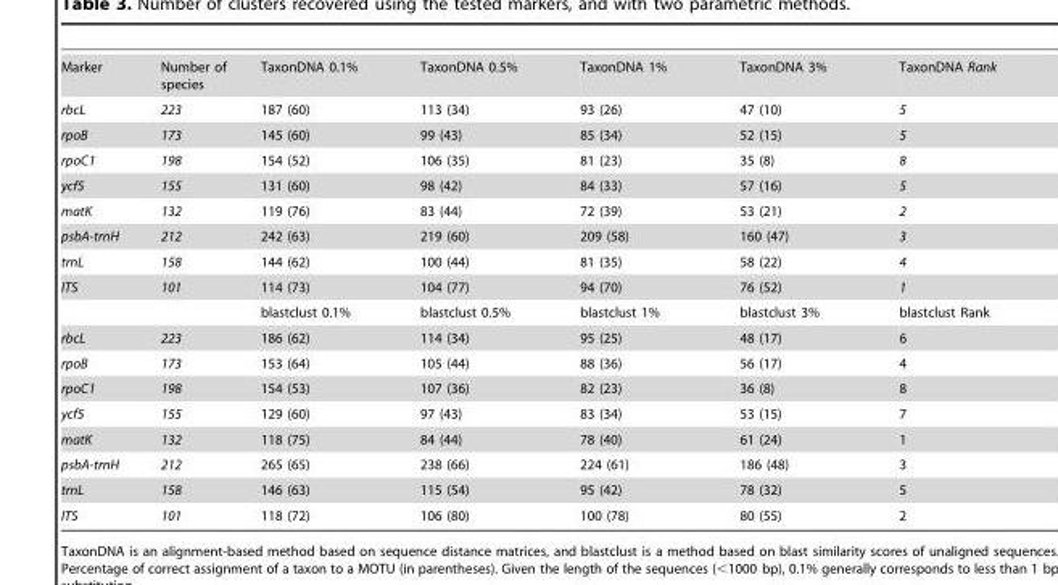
<table><tbody><tr><td>Marker</td><td>Number of species</td><td>TaxonDNA 0.1%</td><td>TaxonDNA 0.5%</td><td>TaxonDNA 1%</td><td>TaxonDNA 3%</td><td>TaxonDNA Rank</td></tr><tr><td>rbcL</td><td>223</td><td>187 (60)</td><td>113 (34)</td><td>93 (26)</td><td>47 (10)</td><td>5</td></tr><tr><td>rpoB</td><td>173</td><td>145 (60)</td><td>99 (43)</td><td>85 (34)</td><td>52 (15)</td><td>5</td></tr><tr><td>rpoC1</td><td>198</td><td>154 (52)</td><td>106 (35)</td><td>81 (23)</td><td>35 (8)</td><td>8</td></tr><tr><td>ycf5</td><td>155</td><td>131 (60)</td><td>98 (42)</td><td>84 (33)</td><td>57 (16)</td><td>5</td></tr><tr><td>matK</td><td>132</td><td>119 (76)</td><td>83 (44)</td><td>72 (39)</td><td>53 (21)</td><td>2</td></tr><tr><td>psbA-trnH</td><td>212</td><td>242 (63)</td><td>219 (60)</td><td>209 (58)</td><td>160 (47)</td><td>3</td></tr><tr><td>trnL</td><td>158</td><td>144 (62)</td><td>100 (44)</td><td>81 (35)</td><td>58 (22)</td><td>4</td></tr><tr><td rowspan="2">ITS</td><td>101</td><td>114 (73)</td><td>104 (77)</td><td>94 (70)</td><td>76 (52)</td><td>1</td></tr><tr><td></td><td>blastclust 0.1%</td><td>blastclust 0.5%</td><td>blastclust 1%</td><td>blastclust 3%</td><td>blastclust Rank</td></tr><tr><td>rbcL</td><td>223</td><td>186 (62)</td><td>114 (34)</td><td>95 (25)</td><td>48 (17)</td><td>6</td></tr><tr><td>rpoB</td><td>173</td><td>153 (64)</td><td>105 (44)</td><td>88 (36)</td><td>56 (17)</td><td>4</td></tr><tr><td>rpoC1</td><td>198</td><td>154 (53)</td><td>107 (36)</td><td>82 (23)</td><td>36 (8)</td><td>8</td></tr><tr><td>ycf5</td><td>155</td><td>129 (60)</td><td>97 (43)</td><td>83 (34)</td><td>53 (15)</td><td>7</td></tr><tr><td>matK</td><td>132</td><td>118 (75)</td><td>84 (44)</td><td>78 (40)</td><td>61 (24)</td><td>1</td></tr><tr><td>psbA-trnH</td><td>212</td><td>265 (65)</td><td>238 (66)</td><td>224 (61)</td><td>186 (48)</td><td>3</td></tr><tr><td>trnL</td><td>158</td><td>146 (63)</td><td>115 (54)</td><td>95 (42)</td><td>78 (32)</td><td>5</td></tr><tr><td>ITS</td><td>101</td><td>118 (72)</td><td>106 (80)</td><td>100 (78)</td><td>80 (55)</td><td>2</td></tr></tbody></table>